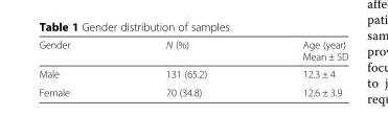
<table><thead><tr><td>Gender</td><td>N (%)</td><td>Age (year) Mean ± SD</td></tr></thead><tbody><tr><td>Male</td><td>131 (65.2)</td><td>12.3 ± 4</td></tr><tr><td>Female</td><td>70 (34.8)</td><td>12.6 ± 3.9</td></tr></tbody></table>